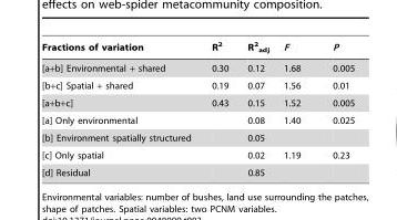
<table><thead><tr><td>Fractions of variation</td><td>R<sup>2</sup></td><td>R<sup>2</sup> <sub>adj</sub></td><td>F</td><td>P</td></tr></thead><tbody><tr><td>[a+b] Environmental + shared</td><td>0.30</td><td>0.12</td><td>1.68</td><td>0.005</td></tr><tr><td>[b+c] Spatial + shared</td><td>0.19</td><td>0.07</td><td>1.56</td><td>0.01</td></tr><tr><td>[a+b+c]</td><td>0.43</td><td>0.15</td><td>1.52</td><td>0.005</td></tr><tr><td>[a] Only environmental</td><td></td><td>0.08</td><td>1.40</td><td>0.025</td></tr><tr><td>[b] Environment spatially structured</td><td></td><td>0.05</td><td></td><td></td></tr><tr><td>[c] Only spatial</td><td></td><td>0.02</td><td>1.19</td><td>0.23</td></tr><tr><td>[d] Residual</td><td></td><td>0.85</td><td></td><td></td></tr></tbody></table>